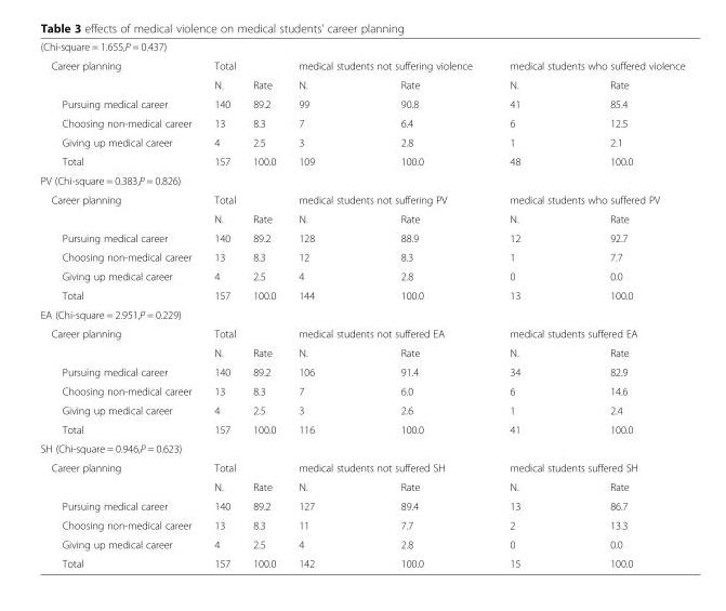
<table><tbody><tr><td colspan="7">(Chi-square = 1.655,P = 0.437)</td></tr><tr><td rowspan="2">Career planning</td><td colspan="2">Total</td><td colspan="2">medical students not suffering violence</td><td colspan="2">medical students who suffered violence</td></tr><tr><td>N.</td><td>Rate</td><td>N.</td><td>Rate</td><td>N.</td><td>Rate</td></tr><tr><td>Pursuing medical career</td><td>140</td><td>89.2</td><td>99</td><td>90.8</td><td>41</td><td>85.4</td></tr><tr><td>Choosing non-medical career</td><td>13</td><td>8.3</td><td>7</td><td>6.4</td><td>6</td><td>12.5</td></tr><tr><td>Giving up medical career</td><td>4</td><td>2.5</td><td>3</td><td>2.8</td><td>1</td><td>2.1</td></tr><tr><td>Total</td><td>157</td><td>100.0</td><td>109</td><td>100.0</td><td>48</td><td>100.0</td></tr><tr><td colspan="7">PV (Chi-square = 0.383,P = 0.826)</td></tr><tr><td rowspan="2">Career planning</td><td colspan="2">Total</td><td colspan="2">medical students not suffering PV</td><td colspan="2">medical students who suffered PV</td></tr><tr><td>N.</td><td>Rate</td><td>N.</td><td>Rate</td><td>N.</td><td>Rate</td></tr><tr><td>Pursuing medical career</td><td>140</td><td>89.2</td><td>128</td><td>88.9</td><td>12</td><td>92.7</td></tr><tr><td>Choosing non-medical career</td><td>13</td><td>8.3</td><td>12</td><td>8.3</td><td>1</td><td>7.7</td></tr><tr><td>Giving up medical career</td><td>4</td><td>2.5</td><td>4</td><td>2.8</td><td>0</td><td>0.0</td></tr><tr><td>Total</td><td>157</td><td>100.0</td><td>144</td><td>100.0</td><td>13</td><td>100.0</td></tr><tr><td colspan="7">EA (Chi-square = 2.951,P = 0.229)</td></tr><tr><td rowspan="2">Career planning</td><td colspan="2">Total</td><td colspan="2">medical students not suffered EA</td><td colspan="2">medical students suffered EA</td></tr><tr><td>N.</td><td>Rate</td><td>N.</td><td>Rate</td><td>N.</td><td>Rate</td></tr><tr><td>Pursuing medical career</td><td>140</td><td>89.2</td><td>106</td><td>91.4</td><td>34</td><td>82.9</td></tr><tr><td>Choosing non-medical career</td><td>13</td><td>8.3</td><td>7</td><td>6.0</td><td>6</td><td>14.6</td></tr><tr><td>Giving up medical career</td><td>4</td><td>2.5</td><td>3</td><td>2.6</td><td>1</td><td>2.4</td></tr><tr><td>Total</td><td>157</td><td>100.0</td><td>116</td><td>100.0</td><td>41</td><td>100.0</td></tr><tr><td colspan="7">SH (Chi-square = 0.946,P = 0.623)</td></tr><tr><td rowspan="2">Career planning</td><td colspan="2">Total</td><td colspan="2">medical students not suffered SH</td><td colspan="2">medical students suffered SH</td></tr><tr><td>N.</td><td>Rate</td><td>N.</td><td>Rate</td><td>N.</td><td>Rate</td></tr><tr><td>Pursuing medical career</td><td>140</td><td>89.2</td><td>127</td><td>89.4</td><td>13</td><td>86.7</td></tr><tr><td>Choosing non-medical career</td><td>13</td><td>8.3</td><td>11</td><td>7.7</td><td>2</td><td>13.3</td></tr><tr><td>Giving up medical career</td><td>4</td><td>2.5</td><td>4</td><td>2.8</td><td>0</td><td>0.0</td></tr><tr><td>Total</td><td>157</td><td>100.0</td><td>142</td><td>100.0</td><td>15</td><td>100.0</td></tr></tbody></table>